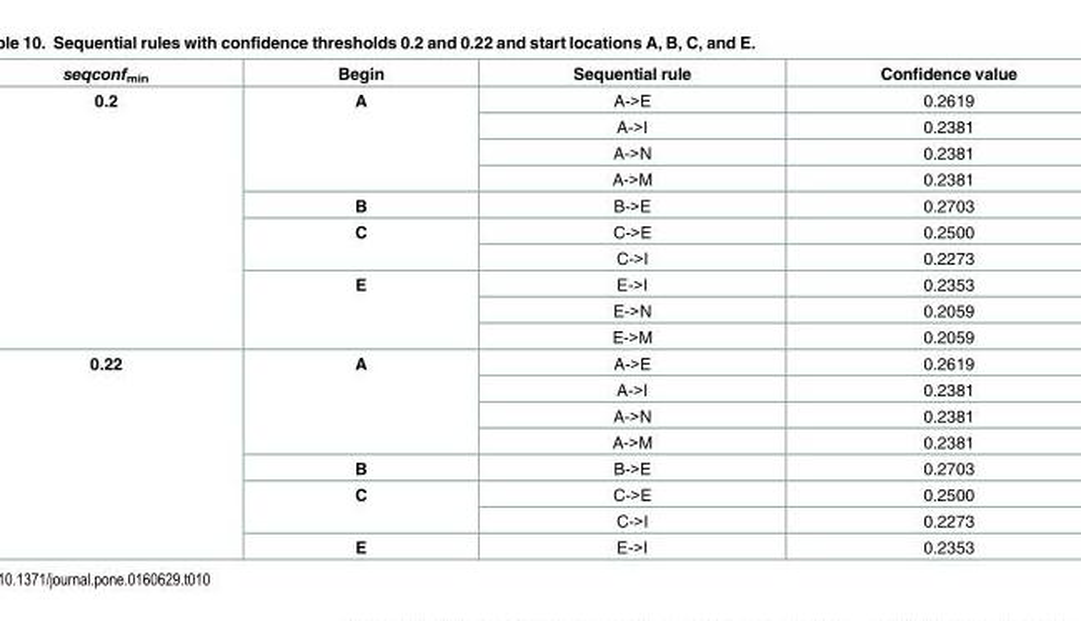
<table><thead><tr><td>seqconf<sub>min</sub></td><td>Begin</td><td>Sequential rule</td><td>Confidence value</td></tr></thead><tbody><tr><td rowspan="10">0.2</td><td rowspan="4">A</td><td>A-&gt;E</td><td>0.2619</td></tr><tr><td>A-&gt;I</td><td>0.2381</td></tr><tr><td>A-&gt;N</td><td>0.2381</td></tr><tr><td>A-&gt;M</td><td>0.2381</td></tr><tr><td>B</td><td>B-&gt;E</td><td>0.2703</td></tr><tr><td rowspan="2">C</td><td>C-&gt;E</td><td>0.2500</td></tr><tr><td>C-&gt;I</td><td>0.2273</td></tr><tr><td rowspan="3">E</td><td>E-&gt;I</td><td>0.2353</td></tr><tr><td>E-&gt;N</td><td>0.2059</td></tr><tr><td>E-&gt;M</td><td>0.2059</td></tr><tr><td rowspan="8">0.22</td><td rowspan="4">A</td><td>A-&gt;E</td><td>0.2619</td></tr><tr><td>A-&gt;I</td><td>0.2381</td></tr><tr><td>A-&gt;N</td><td>0.2381</td></tr><tr><td>A-&gt;M</td><td>0.2381</td></tr><tr><td>B</td><td>B-&gt;E</td><td>0.2703</td></tr><tr><td rowspan="2">C</td><td>C-&gt;E</td><td>0.2500</td></tr><tr><td>C-&gt;I</td><td>0.2273</td></tr><tr><td>E</td><td>E-&gt;I</td><td>0.2353</td></tr></tbody></table>